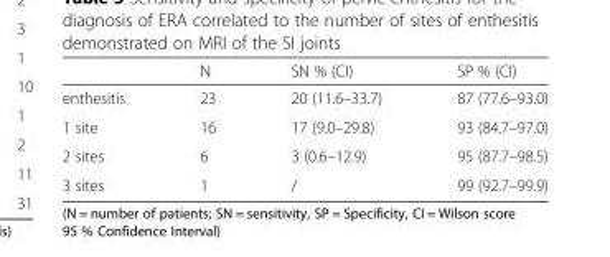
<table><thead><tr><td></td><td>N</td><td>SN % (CI)</td><td>SP % (CI)</td></tr></thead><tbody><tr><td>enthesitis</td><td>23</td><td>20 (11.6–33.7)</td><td>87 (77.6–93.0)</td></tr><tr><td>1 site</td><td>16</td><td>17 (9.0–29.8)</td><td>93 (84.7–97.0)</td></tr><tr><td>2 sites</td><td>6</td><td>3 (0.6–12.9)</td><td>95 (87.7–98.5)</td></tr><tr><td>3 sites</td><td>1</td><td>/</td><td>99 (92.7–99.9)</td></tr></tbody></table>